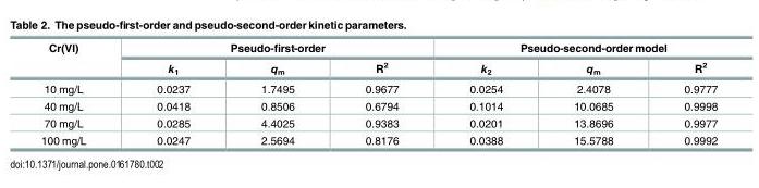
<table><thead><tr><td rowspan="2">Cr(VI)</td><td colspan="3">Pseudo-first-order</td><td colspan="3">Pseudo-second-order model</td></tr><tr><td>k<sub>1</sub></td><td>q<sub>m</sub></td><td>R<sup>2</sup></td><td>k<sub>2</sub></td><td>q<sub>m</sub></td><td>R<sup>2</sup></td></tr></thead><tbody><tr><td>10 mg/L</td><td>0.0237</td><td>1.7495</td><td>0.9677</td><td>0.0254</td><td>2.4078</td><td>0.9777</td></tr><tr><td>40 mg/L</td><td>0.0418</td><td>0.8506</td><td>0.6794</td><td>0.1014</td><td>10.0685</td><td>0.9998</td></tr><tr><td>70 mg/L</td><td>0.0285</td><td>4.4025</td><td>0.9383</td><td>0.0201</td><td>13.8696</td><td>0.9977</td></tr><tr><td>100 mg/L</td><td>0.0247</td><td>2.5694</td><td>0.8176</td><td>0.0388</td><td>15.5788</td><td>0.9992</td></tr></tbody></table>